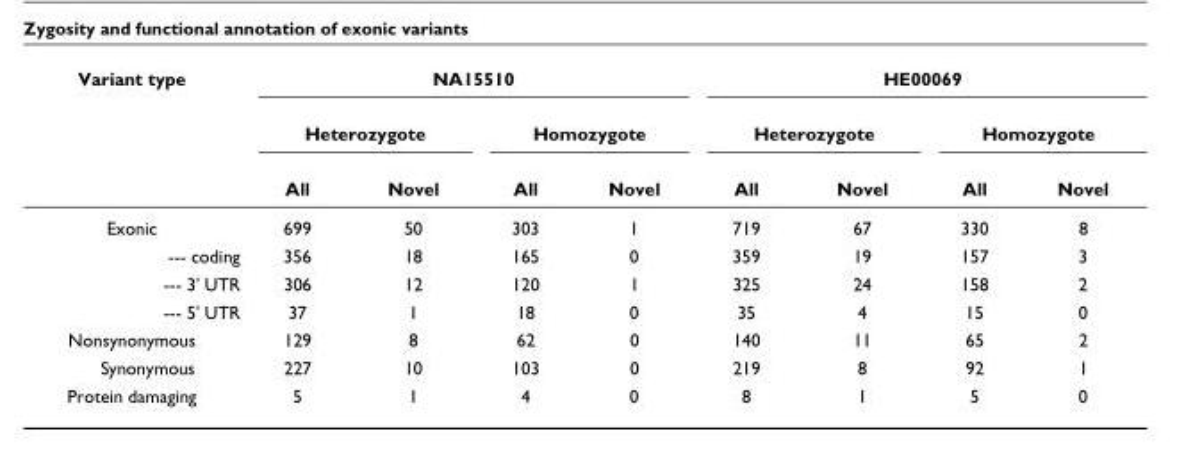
<table><thead><tr><td rowspan="3">Variant type</td><td colspan="4">NA15510</td><td colspan="4">HE00069</td></tr><tr><td colspan="2">Heterozygote</td><td colspan="2">Homozygote</td><td colspan="2">Heterozygote</td><td colspan="2">Homozygote</td></tr><tr><td>All</td><td>Novel</td><td>All</td><td>Novel</td><td>All</td><td>Novel</td><td>All</td><td>Novel</td></tr></thead><tbody><tr><td>Exonic</td><td>699</td><td>50</td><td>303</td><td>1</td><td>719</td><td>67</td><td>330</td><td>8</td></tr><tr><td>--- coding</td><td>356</td><td>18</td><td>165</td><td>0</td><td>359</td><td>19</td><td>157</td><td>3</td></tr><tr><td>--- 3&#x27; UTR</td><td>306</td><td>12</td><td>120</td><td>1</td><td>325</td><td>24</td><td>158</td><td>2</td></tr><tr><td>--- 5&#x27; UTR</td><td>37</td><td>1</td><td>18</td><td>0</td><td>35</td><td>4</td><td>15</td><td>0</td></tr><tr><td>Nonsynonymous</td><td>129</td><td>8</td><td>62</td><td>0</td><td>140</td><td>11</td><td>65</td><td>2</td></tr><tr><td>Synonymous</td><td>227</td><td>10</td><td>103</td><td>0</td><td>219</td><td>8</td><td>92</td><td>1</td></tr><tr><td>Protein damaging</td><td>5</td><td>1</td><td>4</td><td>0</td><td>8</td><td>1</td><td>5</td><td>0</td></tr></tbody></table>